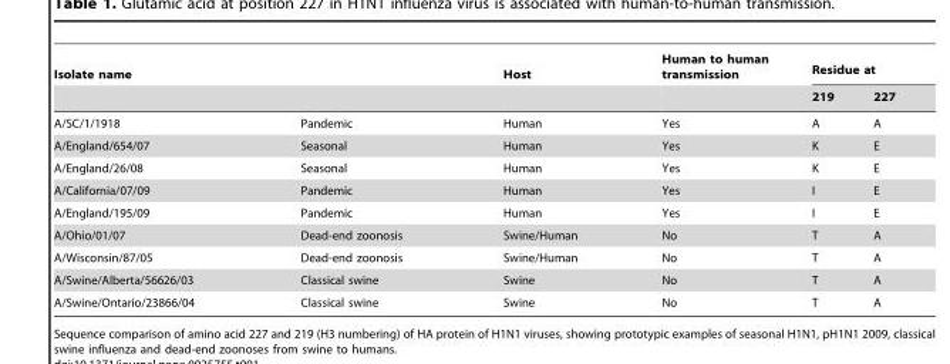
<table><thead><tr><td colspan="2">Isolate name</td><td rowspan="2">Host</td><td rowspan="2">Human to human transmission</td><td colspan="2">Residue at</td></tr><tr><td></td><td></td><td>219</td><td>227</td></tr></thead><tbody><tr><td>A/SC/1/1918</td><td>Pandemic</td><td>Human</td><td>Yes</td><td>A</td><td>A</td></tr><tr><td>A/England/654/07</td><td>Seasonal</td><td>Human</td><td>Yes</td><td>K</td><td>E</td></tr><tr><td>A/England/26/08</td><td>Seasonal</td><td>Human</td><td>Yes</td><td>K</td><td>E</td></tr><tr><td>A/California/07/09</td><td>Pandemic</td><td>Human</td><td>Yes</td><td>I</td><td>E</td></tr><tr><td>A/England/195/09</td><td>Pandemic</td><td>Human</td><td>Yes</td><td>I</td><td>E</td></tr><tr><td>A/Ohio/01/07</td><td>Dead-end zoonosis</td><td>Swine/Human</td><td>No</td><td>T</td><td>A</td></tr><tr><td>A/Wisconsin/87/05</td><td>Dead-end zoonosis</td><td>Swine/Human</td><td>No</td><td>T</td><td>A</td></tr><tr><td>A/Swine/Alberta/56626/03</td><td>Classical swine</td><td>Swine</td><td>No</td><td>T</td><td>A</td></tr><tr><td>A/Swine/Ontario/23866/04</td><td>Classical swine</td><td>Swine</td><td>No</td><td>T</td><td>A</td></tr></tbody></table>